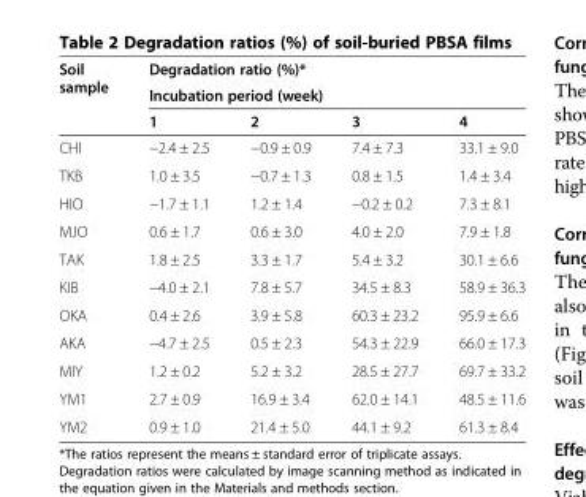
<table><thead><tr><td rowspan="3">Soil sample</td><td rowspan="2" colspan="4">Degradation ratio (%)* Incubation period (week)</td></tr><tr></tr><tr><td>1</td><td>2</td><td>3</td><td>4</td></tr></thead><tbody><tr><td>CHI</td><td>−2.4 ± 2.5</td><td>−0.9 ± 0.9</td><td>7.4 ± 7.3</td><td>33.1 ± 9.0</td></tr><tr><td>TKB</td><td>1.0 ± 3.5</td><td>−0.7 ± 1.3</td><td>0.8 ± 1.5</td><td>1.4 ± 3.4</td></tr><tr><td>HIO</td><td>−1.7 ± 1.1</td><td>1.2 ± 1.4</td><td>−0.2 ± 0.2</td><td>7.3 ± 8.1</td></tr><tr><td>MJO</td><td>0.6 ± 1.7</td><td>0.6 ± 3.0</td><td>4.0 ± 2.0</td><td>7.9 ± 1.8</td></tr><tr><td>TAK</td><td>1.8 ± 2.5</td><td>3.3 ± 1.7</td><td>5.4 ± 3.2</td><td>30.1 ± 6.6</td></tr><tr><td>KIB</td><td>−4.0 ± 2.1</td><td>7.8 ± 5.7</td><td>34.5 ± 8.3</td><td>58.9 ± 36.3</td></tr><tr><td>OKA</td><td>0.4 ± 2.6</td><td>3.9 ± 5.8</td><td>60.3 ± 23.2</td><td>95.9 ± 6.6</td></tr><tr><td>AKA</td><td>−4.7 ± 2.5</td><td>0.5 ± 2.3</td><td>54.3 ± 22.9</td><td>66.0 ± 17.3</td></tr><tr><td>MIY</td><td>1.2 ± 0.2</td><td>5.2 ± 3.2</td><td>28.5 ± 27.7</td><td>69.7 ± 33.2</td></tr><tr><td>YM1</td><td>2.7 ± 0.9</td><td>16.9 ± 3.4</td><td>62.0 ± 14.1</td><td>48.5 ± 11.6</td></tr><tr><td>YM2</td><td>0.9 ± 1.0</td><td>21.4 ± 5.0</td><td>44.1 ± 9.2</td><td>61.3 ± 8.4</td></tr></tbody></table>